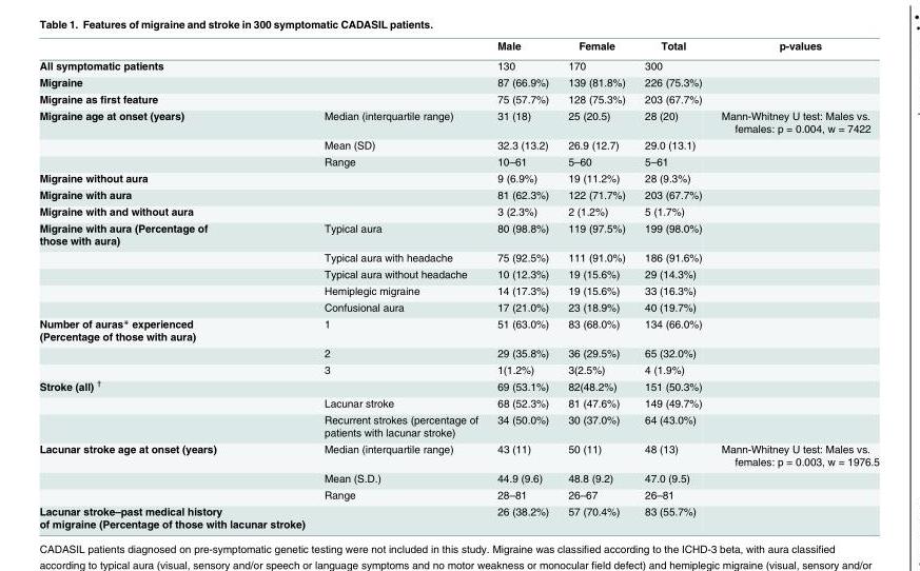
<table><thead><tr><td></td><td></td><td>Male</td><td>Female</td><td>Total</td><td>p-values</td></tr></thead><tbody><tr><td>All symptomatic patients</td><td></td><td>130</td><td>170</td><td>300</td><td></td></tr><tr><td>Migraine</td><td></td><td>87 (66.9%)</td><td>139 (81.8%)</td><td>226 (75.3%)</td><td></td></tr><tr><td>Migraine as first feature</td><td></td><td>75 (57.7%)</td><td>128 (75.3%)</td><td>203 (67.7%)</td><td></td></tr><tr><td rowspan="3">Migraine age at onset (years)</td><td>Median (interquartile range)</td><td>31 (18)</td><td>25 (20.5)</td><td>28 (20)</td><td>Mann-Whitney U test: Males vs. females: p = 0.004, w = 7422</td></tr><tr><td>Mean (SD)</td><td>32.3 (13.2)</td><td>26.9 (12.7)</td><td>29.0 (13.1)</td><td></td></tr><tr><td>Range</td><td>10–61</td><td>5–60</td><td>5–61</td><td></td></tr><tr><td>Migraine without aura</td><td></td><td>9 (6.9%)</td><td>19 (11.2%)</td><td>28 (9.3%)</td><td></td></tr><tr><td>Migraine with aura</td><td></td><td>81 (62.3%)</td><td>122 (71.7%)</td><td>203 (67.7%)</td><td></td></tr><tr><td>Migraine with and without aura</td><td></td><td>3 (2.3%)</td><td>2 (1.2%)</td><td>5 (1.7%)</td><td></td></tr><tr><td rowspan="5">Migraine with aura (Percentage of those with aura)</td><td>Typical aura</td><td>80 (98.8%)</td><td>119 (97.5%)</td><td>199 (98.0%)</td><td></td></tr><tr><td>Typical aura with headache</td><td>75 (92.5%)</td><td>111 (91.0%)</td><td>186 (91.6%)</td><td></td></tr><tr><td>Typical aura without headache</td><td>10 (12.3%)</td><td>19 (15.6%)</td><td>29 (14.3%)</td><td></td></tr><tr><td>Hemiplegic migraine</td><td>14 (17.3%)</td><td>19 (15.6%)</td><td>33 (16.3%)</td><td></td></tr><tr><td>Confusional aura</td><td>17 (21.0%)</td><td>23 (18.9%)</td><td>40 (19.7%)</td><td></td></tr><tr><td rowspan="3">Number of auras* experienced (Percentage of those with aura)</td><td>1</td><td>51 (63.0%)</td><td>83 (68.0%)</td><td>134 (66.0%)</td><td></td></tr><tr><td>2</td><td>29 (35.8%)</td><td>36 (29.5%)</td><td>65 (32.0%)</td><td></td></tr><tr><td>3</td><td>1(1.2%)</td><td>3(2.5%)</td><td>4 (1.9%)</td><td></td></tr><tr><td rowspan="3">Stroke (all) <sup>†</sup></td><td></td><td>69 (53.1%)</td><td>82(48.2%)</td><td>151 (50.3%)</td><td></td></tr><tr><td>Lacunar stroke</td><td>68 (52.3%)</td><td>81 (47.6%)</td><td>149 (49.7%)</td><td></td></tr><tr><td>Recurrent strokes (percentage of patients with lacunar stroke)</td><td>34 (50.0%)</td><td>30 (37.0%)</td><td>64 (43.0%)</td><td></td></tr><tr><td rowspan="3">Lacunar stroke age at onset (years)</td><td>Median (interquartile range)</td><td>43 (11)</td><td>50 (11)</td><td>48 (13)</td><td>Mann-Whitney U test: Males vs. females: p = 0.003, w = 1976.5</td></tr><tr><td>Mean (S.D.)</td><td>44.9 (9.6)</td><td>48.8 (9.2)</td><td>47.0 (9.5)</td><td></td></tr><tr><td>Range</td><td>28–81</td><td>26–67</td><td>26–81</td><td></td></tr><tr><td>Lacunar stroke–past medical history of migraine (Percentage of those with lacunar stroke)</td><td></td><td>26 (38.2%)</td><td>57 (70.4%)</td><td>83 (55.7%)</td><td></td></tr></tbody></table>